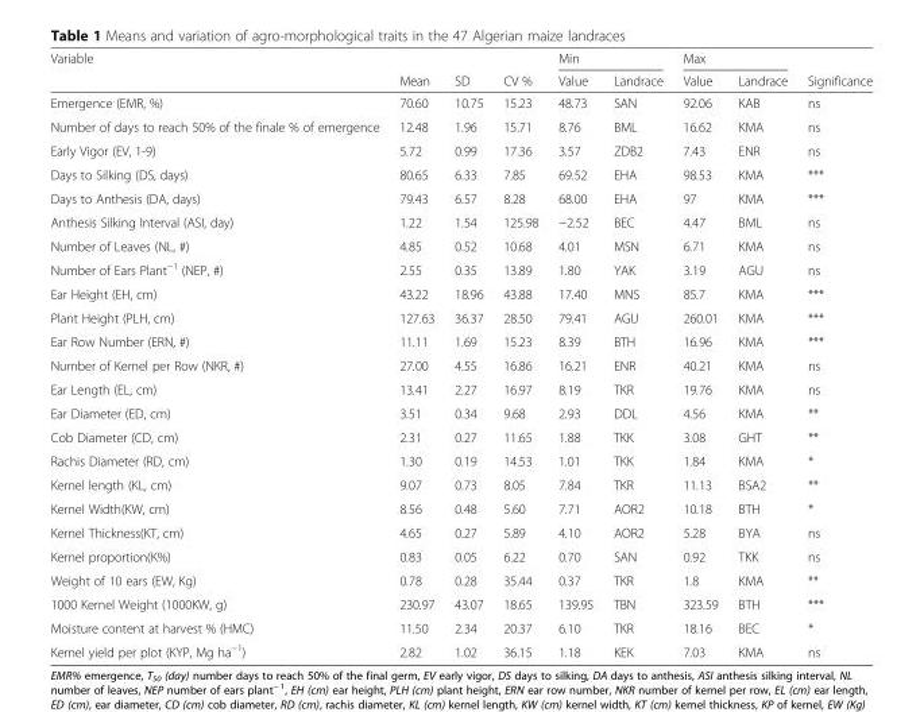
<table><thead><tr><td rowspan="2">Variable</td><td rowspan="2">Mean</td><td rowspan="2">SD</td><td rowspan="2">CV %</td><td colspan="2">Min</td><td colspan="2">Max</td><td rowspan="2">Significance</td></tr><tr><td>Value</td><td>Landrace</td><td>Value</td><td>Landrace</td></tr></thead><tbody><tr><td>Emergence (EMR, %)</td><td>70.60</td><td>10.75</td><td>15.23</td><td>48.73</td><td>SAN</td><td>92.06</td><td>KAB</td><td>ns</td></tr><tr><td>Number of days to reach 50% of the finale % of emergence</td><td>12.48</td><td>1.96</td><td>15.71</td><td>8.76</td><td>BML</td><td>16.62</td><td>KMA</td><td>ns</td></tr><tr><td>Early Vigor (EV, 1-9)</td><td>5.72</td><td>0.99</td><td>17.36</td><td>3.57</td><td>ZDB2</td><td>7.43</td><td>ENR</td><td>ns</td></tr><tr><td>Days to Silking (DS, days)</td><td>80.65</td><td>6.33</td><td>7.85</td><td>69.52</td><td>EHA</td><td>98.53</td><td>KMA</td><td>***</td></tr><tr><td>Days to Anthesis (DA, days)</td><td>79.43</td><td>6.57</td><td>8.28</td><td>68.00</td><td>EHA</td><td>97</td><td>KMA</td><td>***</td></tr><tr><td>Anthesis Silking Interval (ASI, day)</td><td>1.22</td><td>1.54</td><td>125.98</td><td>−2.52</td><td>BEC</td><td>4.47</td><td>BML</td><td>ns</td></tr><tr><td>Number of Leaves (NL, #)</td><td>4.85</td><td>0.52</td><td>10.68</td><td>4.01</td><td>MSN</td><td>6.71</td><td>KMA</td><td>ns</td></tr><tr><td>Number of Ears Plant<sup>−1</sup> (NEP, #)</td><td>2.55</td><td>0.35</td><td>13.89</td><td>1.80</td><td>YAK</td><td>3.19</td><td>AGU</td><td>ns</td></tr><tr><td>Ear Height (EH, cm)</td><td>43.22</td><td>18.96</td><td>43.88</td><td>17.40</td><td>MNS</td><td>85.7</td><td>KMA</td><td>***</td></tr><tr><td>Plant Height (PLH, cm)</td><td>127.63</td><td>36.37</td><td>28.50</td><td>79.41</td><td>AGU</td><td>260.01</td><td>KMA</td><td>***</td></tr><tr><td>Ear Row Number (ERN, #)</td><td>11.11</td><td>1.69</td><td>15.23</td><td>8.39</td><td>BTH</td><td>16.96</td><td>KMA</td><td>***</td></tr><tr><td>Number of Kernel per Row (NKR, #)</td><td>27.00</td><td>4.55</td><td>16.86</td><td>16.21</td><td>ENR</td><td>40.21</td><td>KMA</td><td>ns</td></tr><tr><td>Ear Length (EL, cm)</td><td>13.41</td><td>2.27</td><td>16.97</td><td>8.19</td><td>TKR</td><td>19.76</td><td>KMA</td><td>ns</td></tr><tr><td>Ear Diameter (ED, cm)</td><td>3.51</td><td>0.34</td><td>9.68</td><td>2.93</td><td>DDL</td><td>4.56</td><td>KMA</td><td>**</td></tr><tr><td>Cob Diameter (CD, cm)</td><td>2.31</td><td>0.27</td><td>11.65</td><td>1.88</td><td>TKK</td><td>3.08</td><td>GHT</td><td>**</td></tr><tr><td>Rachis Diameter (RD, cm)</td><td>1.30</td><td>0.19</td><td>14.53</td><td>1.01</td><td>TKK</td><td>1.84</td><td>KMA</td><td>*</td></tr><tr><td>Kernel length (KL, cm)</td><td>9.07</td><td>0.73</td><td>8.05</td><td>7.84</td><td>TKR</td><td>11.13</td><td>BSA2</td><td>**</td></tr><tr><td>Kernel Width(KW, cm)</td><td>8.56</td><td>0.48</td><td>5.60</td><td>7.71</td><td>AOR2</td><td>10.18</td><td>BTH</td><td>*</td></tr><tr><td>Kernel Thickness(KT, cm)</td><td>4.65</td><td>0.27</td><td>5.89</td><td>4.10</td><td>AOR2</td><td>5.28</td><td>BYA</td><td>ns</td></tr><tr><td>Kernel proportion(K%)</td><td>0.83</td><td>0.05</td><td>6.22</td><td>0.70</td><td>SAN</td><td>0.92</td><td>TKK</td><td>ns</td></tr><tr><td>Weight of 10 ears (EW, Kg)</td><td>0.78</td><td>0.28</td><td>35.44</td><td>0.37</td><td>TKR</td><td>1.8</td><td>KMA</td><td>**</td></tr><tr><td>1000 Kernel Weight (1000KW, g)</td><td>230.97</td><td>43.07</td><td>18.65</td><td>139.95</td><td>TBN</td><td>323.59</td><td>BTH</td><td>***</td></tr><tr><td>Moisture content at harvest % (HMC)</td><td>11.50</td><td>2.34</td><td>20.37</td><td>6.10</td><td>TKR</td><td>18.16</td><td>BEC</td><td>*</td></tr><tr><td>Kernel yield per plot (KYP, Mg ha<sup>−1</sup>)</td><td>2.82</td><td>1.02</td><td>36.15</td><td>1.18</td><td>KEK</td><td>7.03</td><td>KMA</td><td>ns</td></tr></tbody></table>